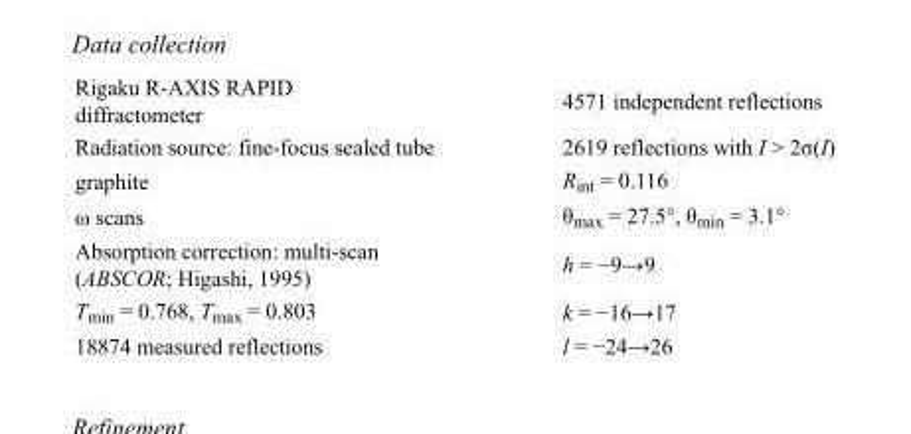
<table><tbody><tr><td>Rigaku R-AXIS RAPID diffractometer</td><td>4571 independent reflections</td></tr><tr><td>Radiation source: fine-focus sealed tube</td><td>2619 reflections with I &gt; 2σ(I)</td></tr><tr><td>graphite</td><td>R<sub>int</sub> = 0.116</td></tr><tr><td>ω scans</td><td>θ<sub>max</sub> = 27.5°, θ<sub>min</sub> = 3.1°</td></tr><tr><td>Absorption correction: multi-scan (ABSCOR; Higashi, 1995)</td><td>h = −9→9</td></tr><tr><td>T<sub>min</sub> = 0.768, T<sub>max</sub> = 0.803</td><td>k = −16→17</td></tr><tr><td>18874 measured reflections</td><td>l = −24→26</td></tr></tbody></table>